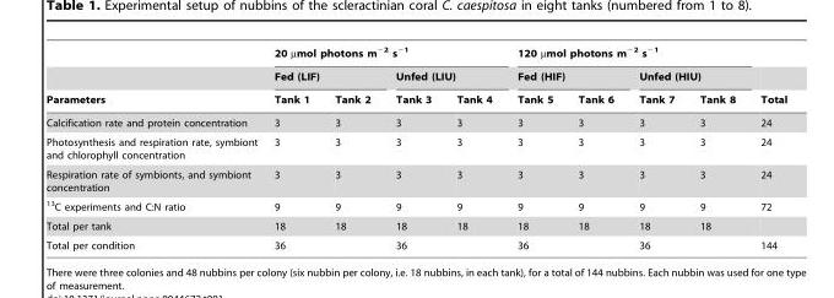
<table><thead><tr><td rowspan="3">Parameters</td><td colspan="4">20 µmol photons m<sup>−2</sup> s<sup>−1</sup></td><td colspan="4">120 µmol photons m<sup>−2</sup> s<sup>−1</sup></td><td rowspan="3">Total</td></tr><tr><td colspan="2">Fed (LIF)</td><td colspan="2">Unfed (LIU)</td><td colspan="2">Fed (HIF)</td><td colspan="2">Unfed (HIU)</td></tr><tr><td>Tank 1</td><td>Tank 2</td><td>Tank 3</td><td>Tank 4</td><td>Tank 5</td><td>Tank 6</td><td>Tank 7</td><td>Tank 8</td></tr></thead><tbody><tr><td>Calcification rate and protein concentration</td><td>3</td><td>3</td><td>3</td><td>3</td><td>3</td><td>3</td><td>3</td><td>3</td><td>24</td></tr><tr><td>Photosynthesis and respiration rate, symbiont and chlorophyll concentration</td><td>3</td><td>3</td><td>3</td><td>3</td><td>3</td><td>3</td><td>3</td><td>3</td><td>24</td></tr><tr><td>Respiration rate of symbionts, and symbiont concentration</td><td>3</td><td>3</td><td>3</td><td>3</td><td>3</td><td>3</td><td>3</td><td>3</td><td>24</td></tr><tr><td><sup>13</sup>C experiments and C:N ratio</td><td>9</td><td>9</td><td>9</td><td>9</td><td>9</td><td>9</td><td>9</td><td>9</td><td>72</td></tr><tr><td>Total per tank</td><td>18</td><td>18</td><td>18</td><td>18</td><td>18</td><td>18</td><td>18</td><td>18</td><td></td></tr><tr><td>Total per condition</td><td colspan="2">36</td><td colspan="2">36</td><td colspan="2">36</td><td colspan="2">36</td><td>144</td></tr></tbody></table>